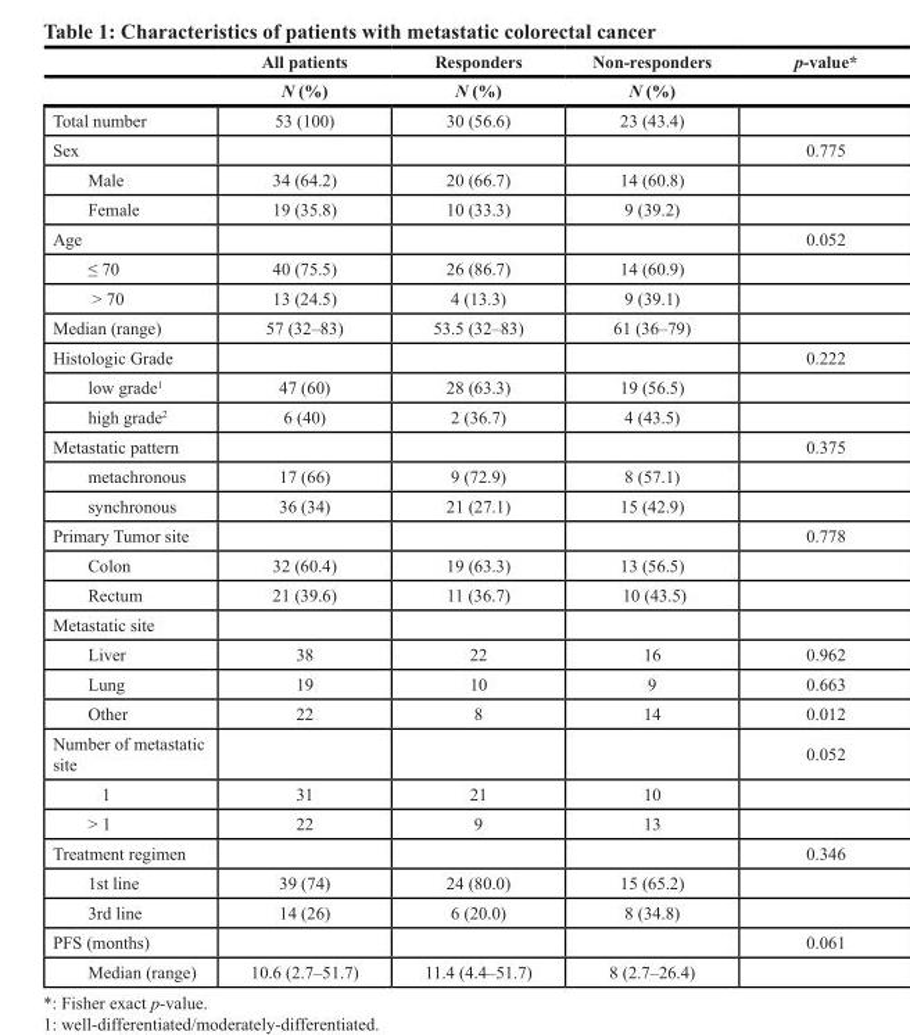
<table><thead><tr><td rowspan="2"></td><td rowspan="2">All patients N (%)</td><td rowspan="2">Responders N (%)</td><td rowspan="2">Non-responders N (%)</td><td rowspan="2">p-value*</td></tr><tr></tr></thead><tbody><tr><td>Total number</td><td>53 (100)</td><td>30 (56.6)</td><td>23 (43.4)</td><td></td></tr><tr><td>Sex</td><td></td><td></td><td></td><td>0.775</td></tr><tr><td>Male</td><td>34 (64.2)</td><td>20 (66.7)</td><td>14 (60.8)</td><td></td></tr><tr><td>Female</td><td>19 (35.8)</td><td>10 (33.3)</td><td>9 (39.2)</td><td></td></tr><tr><td>Age</td><td></td><td></td><td></td><td>0.052</td></tr><tr><td>≤ 70</td><td>40 (75.5)</td><td>26 (86.7)</td><td>14 (60.9)</td><td></td></tr><tr><td>&gt; 70</td><td>13 (24.5)</td><td>4 (13.3)</td><td>9 (39.1)</td><td></td></tr><tr><td>Median (range)</td><td>57 (32–83)</td><td>53.5 (32–83)</td><td>61 (36–79)</td><td></td></tr><tr><td>Histologic Grade</td><td></td><td></td><td></td><td>0.222</td></tr><tr><td>low grade<sup>1</sup></td><td>47 (60)</td><td>28 (63.3)</td><td>19 (56.5)</td><td></td></tr><tr><td>high grade<sup>2</sup></td><td>6 (40)</td><td>2 (36.7)</td><td>4 (43.5)</td><td></td></tr><tr><td>Metastatic pattern</td><td></td><td></td><td></td><td>0.375</td></tr><tr><td>metachronous</td><td>17 (66)</td><td>9 (72.9)</td><td>8 (57.1)</td><td></td></tr><tr><td>synchronous</td><td>36 (34)</td><td>21 (27.1)</td><td>15 (42.9)</td><td></td></tr><tr><td>Primary Tumor site</td><td></td><td></td><td></td><td>0.778</td></tr><tr><td>Colon</td><td>32 (60.4)</td><td>19 (63.3)</td><td>13 (56.5)</td><td></td></tr><tr><td>Rectum</td><td>21 (39.6)</td><td>11 (36.7)</td><td>10 (43.5)</td><td></td></tr><tr><td colspan="5">Metastatic site</td></tr><tr><td>Liver</td><td>38</td><td>22</td><td>16</td><td>0.962</td></tr><tr><td>Lung</td><td>19</td><td>10</td><td>9</td><td>0.663</td></tr><tr><td>Other</td><td>22</td><td>8</td><td>14</td><td>0.012</td></tr><tr><td>Number of metastatic site</td><td></td><td></td><td></td><td>0.052</td></tr><tr><td>1</td><td>31</td><td>21</td><td>10</td><td></td></tr><tr><td>&gt; 1</td><td>22</td><td>9</td><td>13</td><td></td></tr><tr><td>Treatment regimen</td><td></td><td></td><td></td><td>0.346</td></tr><tr><td>1st line</td><td>39 (74)</td><td>24 (80.0)</td><td>15 (65.2)</td><td></td></tr><tr><td>3rd line</td><td>14 (26)</td><td>6 (20.0)</td><td>8 (34.8)</td><td></td></tr><tr><td>PFS (months)</td><td></td><td></td><td></td><td>0.061</td></tr><tr><td>Median (range)</td><td>10.6 (2.7–51.7)</td><td>11.4 (4.4–51.7)</td><td>8 (2.7–26.4)</td><td></td></tr></tbody></table>